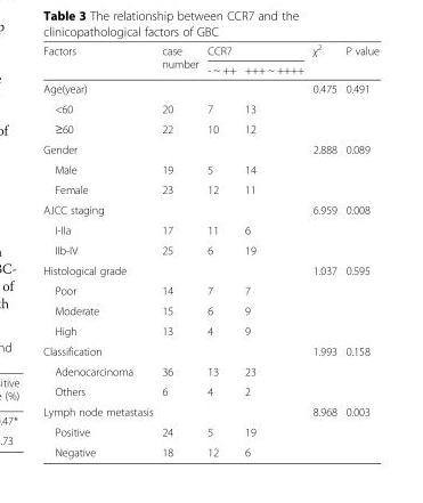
<table><thead><tr><td rowspan="2">Factors</td><td rowspan="2">case number</td><td colspan="2">CCR7</td><td rowspan="2">χ<sup>2</sup></td><td rowspan="2">P value</td></tr><tr><td>- ~ ++</td><td>+++ ~ ++++</td></tr></thead><tbody><tr><td colspan="4">Age(year)</td><td rowspan="3">0.475</td><td rowspan="3">0.491</td></tr><tr><td>&lt;60</td><td>20</td><td>7</td><td>13</td></tr><tr><td>≥60</td><td>22</td><td>10</td><td>12</td></tr><tr><td colspan="4">Gender</td><td rowspan="3">2.888</td><td rowspan="3">0.089</td></tr><tr><td>Male</td><td>19</td><td>5</td><td>14</td></tr><tr><td>Female</td><td>23</td><td>12</td><td>11</td></tr><tr><td colspan="4">AJCC staging</td><td rowspan="3">6.959</td><td rowspan="3">0.008</td></tr><tr><td>I-IIa</td><td>17</td><td>11</td><td>6</td></tr><tr><td>IIb-IV</td><td>25</td><td>6</td><td>19</td></tr><tr><td colspan="4">Histological grade</td><td rowspan="4">1.037</td><td rowspan="4">0.595</td></tr><tr><td>Poor</td><td>14</td><td>7</td><td>7</td></tr><tr><td>Moderate</td><td>15</td><td>6</td><td>9</td></tr><tr><td>High</td><td>13</td><td>4</td><td>9</td></tr><tr><td colspan="4">Classification</td><td rowspan="3">1.993</td><td rowspan="3">0.158</td></tr><tr><td>Adenocarcinoma</td><td>36</td><td>13</td><td>23</td></tr><tr><td>Others</td><td>6</td><td>4</td><td>2</td></tr><tr><td colspan="4">Lymph node metastasis</td><td rowspan="3">8.968</td><td rowspan="3">0.003</td></tr><tr><td>Positive</td><td>24</td><td>5</td><td>19</td></tr><tr><td>Negative</td><td>18</td><td>12</td><td>6</td></tr></tbody></table>